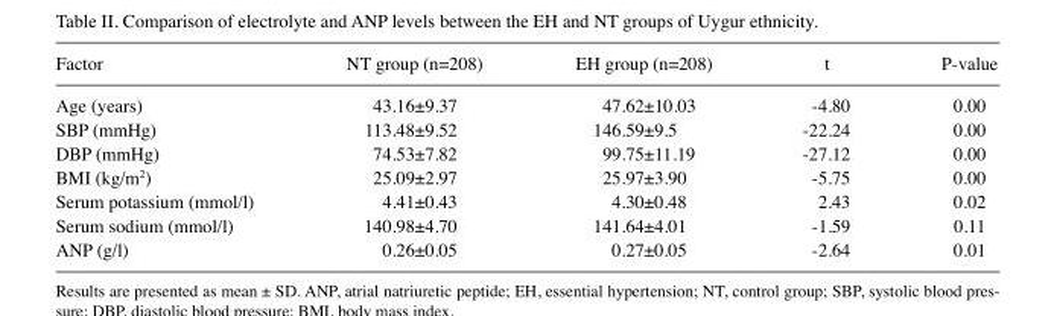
<table><thead><tr><td>Factor</td><td>NT group (n=208)</td><td>EH group (n=208)</td><td>t</td><td>P-value</td></tr></thead><tbody><tr><td>Age (years)</td><td>43.16±9.37</td><td>47.62±10.03</td><td>-4.80</td><td>0.00</td></tr><tr><td>SBP (mmHg)</td><td>113.48±9.52</td><td>146.59±9.5</td><td>-22.24</td><td>0.00</td></tr><tr><td>DBP (mmHg)</td><td>74.53±7.82</td><td>99.75±11.19</td><td>-27.12</td><td>0.00</td></tr><tr><td>BMI (kg/m<sup>2</sup>)</td><td>25.09±2.97</td><td>25.97±3.90</td><td>-5.75</td><td>0.00</td></tr><tr><td>Serum potassium (mmol/l)</td><td>4.41±0.43</td><td>4.30±0.48</td><td>2.43</td><td>0.02</td></tr><tr><td>Serum sodium (mmol/l)</td><td>140.98±4.70</td><td>141.64±4.01</td><td>-1.59</td><td>0.11</td></tr><tr><td>ANP (g/l)</td><td>0.26±0.05</td><td>0.27±0.05</td><td>-2.64</td><td>0.01</td></tr></tbody></table>